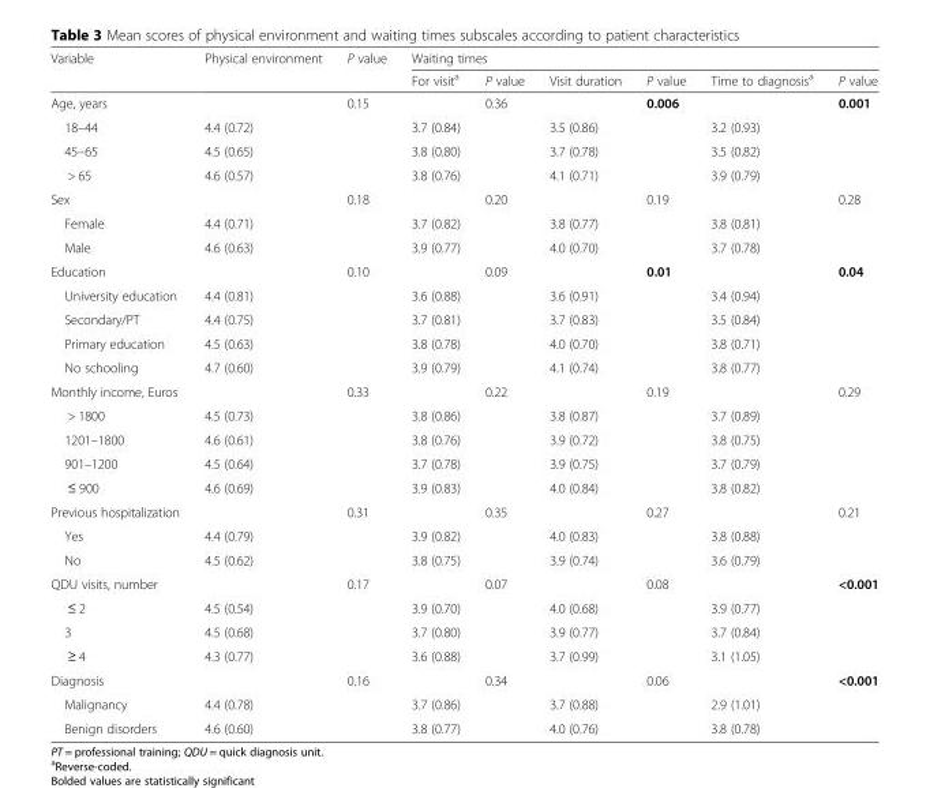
<table><thead><tr><td rowspan="2">Variable</td><td rowspan="2">Physical environment</td><td rowspan="2">P value</td><td colspan="6">Waiting times</td></tr><tr><td>For visit<sup>a</sup></td><td>P value</td><td>Visit duration</td><td>P value</td><td>Time to diagnosis<sup>a</sup></td><td>P value</td></tr></thead><tbody><tr><td>Age, years</td><td></td><td>0.15</td><td></td><td>0.36</td><td></td><td>0.006</td><td></td><td>0.001</td></tr><tr><td>18–44</td><td>4.4 (0.72)</td><td></td><td>3.7 (0.84)</td><td></td><td>3.5 (0.86)</td><td></td><td>3.2 (0.93)</td><td></td></tr><tr><td>45–65</td><td>4.5 (0.65)</td><td></td><td>3.8 (0.80)</td><td></td><td>3.7 (0.78)</td><td></td><td>3.5 (0.82)</td><td></td></tr><tr><td>&gt; 65</td><td>4.6 (0.57)</td><td></td><td>3.8 (0.76)</td><td></td><td>4.1 (0.71)</td><td></td><td>3.9 (0.79)</td><td></td></tr><tr><td>Sex</td><td></td><td>0.18</td><td></td><td>0.20</td><td></td><td>0.19</td><td></td><td>0.28</td></tr><tr><td>Female</td><td>4.4 (0.71)</td><td></td><td>3.7 (0.82)</td><td></td><td>3.8 (0.77)</td><td></td><td>3.8 (0.81)</td><td></td></tr><tr><td>Male</td><td>4.6 (0.63)</td><td></td><td>3.9 (0.77)</td><td></td><td>4.0 (0.70)</td><td></td><td>3.7 (0.78)</td><td></td></tr><tr><td>Education</td><td></td><td>0.10</td><td></td><td>0.09</td><td></td><td>0.01</td><td></td><td>0.04</td></tr><tr><td>University education</td><td>4.4 (0.81)</td><td></td><td>3.6 (0.88)</td><td></td><td>3.6 (0.91)</td><td></td><td>3.4 (0.94)</td><td></td></tr><tr><td>Secondary/PT</td><td>4.4 (0.75)</td><td></td><td>3.7 (0.81)</td><td></td><td>3.7 (0.83)</td><td></td><td>3.5 (0.84)</td><td></td></tr><tr><td>Primary education</td><td>4.5 (0.63)</td><td></td><td>3.8 (0.78)</td><td></td><td>4.0 (0.70)</td><td></td><td>3.8 (0.71)</td><td></td></tr><tr><td>No schooling</td><td>4.7 (0.60)</td><td></td><td>3.9 (0.79)</td><td></td><td>4.1 (0.74)</td><td></td><td>3.8 (0.77)</td><td></td></tr><tr><td>Monthly income, Euros</td><td></td><td>0.33</td><td></td><td>0.22</td><td></td><td>0.19</td><td></td><td>0.29</td></tr><tr><td>&gt; 1800</td><td>4.5 (0.73)</td><td></td><td>3.8 (0.86)</td><td></td><td>3.8 (0.87)</td><td></td><td>3.7 (0.89)</td><td></td></tr><tr><td>1201–1800</td><td>4.6 (0.61)</td><td></td><td>3.8 (0.76)</td><td></td><td>3.9 (0.72)</td><td></td><td>3.8 (0.75)</td><td></td></tr><tr><td>901–1200</td><td>4.5 (0.64)</td><td></td><td>3.7 (0.78)</td><td></td><td>3.9 (0.75)</td><td></td><td>3.7 (0.79)</td><td></td></tr><tr><td>≤ 900</td><td>4.6 (0.69)</td><td></td><td>3.9 (0.83)</td><td></td><td>4.0 (0.84)</td><td></td><td>3.8 (0.82)</td><td></td></tr><tr><td>Previous hospitalization</td><td></td><td>0.31</td><td></td><td>0.35</td><td></td><td>0.27</td><td></td><td>0.21</td></tr><tr><td>Yes</td><td>4.4 (0.79)</td><td></td><td>3.9 (0.82)</td><td></td><td>4.0 (0.83)</td><td></td><td>3.8 (0.88)</td><td></td></tr><tr><td>No</td><td>4.5 (0.62)</td><td></td><td>3.8 (0.75)</td><td></td><td>3.9 (0.74)</td><td></td><td>3.6 (0.79)</td><td></td></tr><tr><td>QDU visits, number</td><td></td><td>0.17</td><td></td><td>0.07</td><td></td><td>0.08</td><td></td><td>&lt;0.001</td></tr><tr><td>≤ 2</td><td>4.5 (0.54)</td><td></td><td>3.9 (0.70)</td><td></td><td>4.0 (0.68)</td><td></td><td>3.9 (0.77)</td><td></td></tr><tr><td>3</td><td>4.5 (0.68)</td><td></td><td>3.7 (0.80)</td><td></td><td>3.9 (0.77)</td><td></td><td>3.7 (0.84)</td><td></td></tr><tr><td>≥ 4</td><td>4.3 (0.77)</td><td></td><td>3.6 (0.88)</td><td></td><td>3.7 (0.99)</td><td></td><td>3.1 (1.05)</td><td></td></tr><tr><td>Diagnosis</td><td></td><td>0.16</td><td></td><td>0.34</td><td></td><td>0.06</td><td></td><td>&lt;0.001</td></tr><tr><td>Malignancy</td><td>4.4 (0.78)</td><td></td><td>3.7 (0.86)</td><td></td><td>3.7 (0.88)</td><td></td><td>2.9 (1.01)</td><td></td></tr><tr><td>Benign disorders</td><td>4.6 (0.60)</td><td></td><td>3.8 (0.77)</td><td></td><td>4.0 (0.76)</td><td></td><td>3.8 (0.78)</td><td></td></tr></tbody></table>